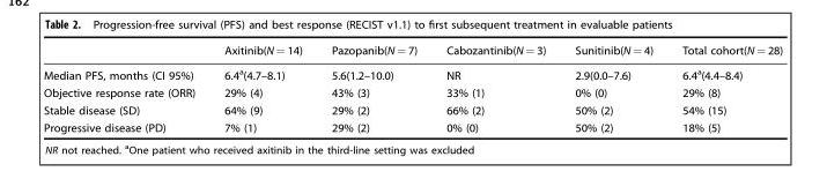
<table><thead><tr><td></td><td>Axitinib(N = 14)</td><td>Pazopanib(N = 7)</td><td>Cabozantinib(N = 3)</td><td>Sunitinib(N = 4)</td><td>Total cohort(N = 28)</td></tr></thead><tbody><tr><td>Median PFS, months (CI 95%)</td><td>6.4<sup>a</sup>(4.7–8.1)</td><td>5.6(1.2–10.0)</td><td>NR</td><td>2.9(0.0–7.6)</td><td>6.4<sup>a</sup>(4.4–8.4)</td></tr><tr><td>Objective response rate (ORR)</td><td>29% (4)</td><td>43% (3)</td><td>33% (1)</td><td>0% (0)</td><td>29% (8)</td></tr><tr><td>Stable disease (SD)</td><td>64% (9)</td><td>29% (2)</td><td>66% (2)</td><td>50% (2)</td><td>54% (15)</td></tr><tr><td>Progressive disease (PD)</td><td>7% (1)</td><td>29% (2)</td><td>0% (0)</td><td>50% (2)</td><td>18% (5)</td></tr></tbody></table>